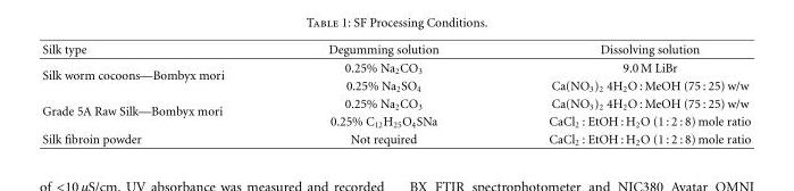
<table><thead><tr><td>Silk type</td><td>Degumming solution</td><td>Dissolving solution</td></tr></thead><tbody><tr><td rowspan="2">Silk worm cocoons—Bombyx mori</td><td>0.25% Na<sub>2</sub>CO<sub>3</sub></td><td>9.0 M LiBr</td></tr><tr><td>0.25% Na<sub>2</sub>SO<sub>4</sub></td><td>Ca(NO<sub>3</sub>)<sub>2</sub> 4H<sub>2</sub>O : MeOH (75 : 25) w/w</td></tr><tr><td rowspan="2">Grade 5A Raw Silk—Bombyx mori</td><td>0.25% Na<sub>2</sub>CO<sub>3</sub></td><td>Ca(NO<sub>3</sub>)<sub>2</sub> 4H<sub>2</sub>O : MeOH (75 : 25) w/w</td></tr><tr><td>0.25% C<sub>12</sub>H<sub>25</sub>O<sub>4</sub>SNa</td><td>CaCl<sub>2</sub> : EtOH : H<sub>2</sub>O (1 : 2 : 8) mole ratio</td></tr><tr><td>Silk fibroin powder</td><td>Not required</td><td>CaCl<sub>2</sub> : EtOH : H<sub>2</sub>O (1 : 2 : 8) mole ratio</td></tr></tbody></table>